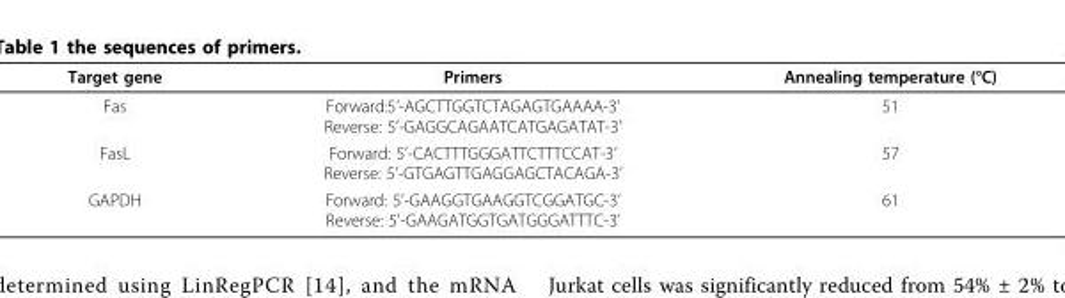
<table><thead><tr><td>Target gene</td><td>Primers</td><td>Annealing temperature (°C)</td></tr></thead><tbody><tr><td>Fas</td><td>Forward:5’-AGCTTGGTCTAGAGTGAAAA-3’ Reverse: 5’-GAGGCAGAATCATGAGATAT-3’</td><td>51</td></tr><tr><td>FasL</td><td>Forward: 5’-CACTTTGGGATTCTTTCCAT-3’ Reverse: 5’-GTGAGTTGAGGAGCTACAGA-3’</td><td>57</td></tr><tr><td>GAPDH</td><td>Forward: 5’-GAAGGTGAAGGTCGGATGC-3’ Reverse: 5’-GAAGATGGTGATGGGATTTC-3’</td><td>61</td></tr></tbody></table>